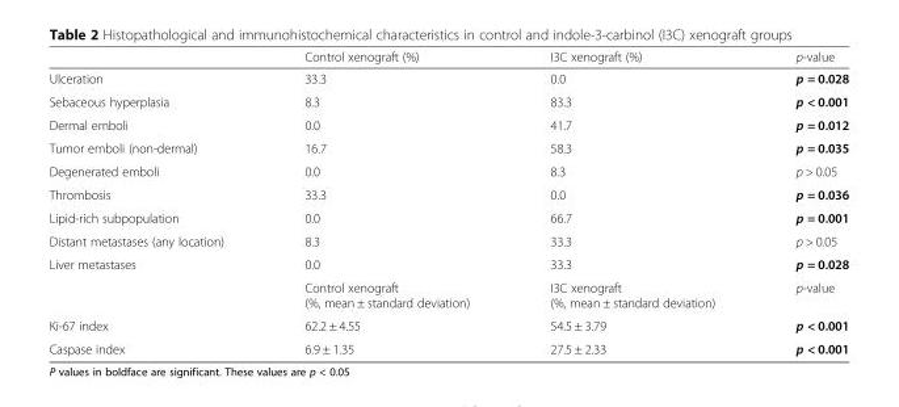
<table><thead><tr><td></td><td>Control xenograft (%)</td><td>I3C xenograft (%)</td><td>p-value</td></tr></thead><tbody><tr><td>Ulceration</td><td>33.3</td><td>0.0</td><td>p = 0.028</td></tr><tr><td>Sebaceous hyperplasia</td><td>8.3</td><td>83.3</td><td>p &lt; 0.001</td></tr><tr><td>Dermal emboli</td><td>0.0</td><td>41.7</td><td>p = 0.012</td></tr><tr><td>Tumor emboli (non-dermal)</td><td>16.7</td><td>58.3</td><td>p = 0.035</td></tr><tr><td>Degenerated emboli</td><td>0.0</td><td>8.3</td><td>p &gt; 0.05</td></tr><tr><td>Thrombosis</td><td>33.3</td><td>0.0</td><td>p = 0.036</td></tr><tr><td>Lipid-rich subpopulation</td><td>0.0</td><td>66.7</td><td>p = 0.001</td></tr><tr><td>Distant metastases (any location)</td><td>8.3</td><td>33.3</td><td>p &gt; 0.05</td></tr><tr><td rowspan="2">Liver metastases</td><td>0.0</td><td>33.3</td><td>p = 0.028</td></tr><tr><td>Control xenograft (%, mean ± standard deviation)</td><td>I3C xenograft (%, mean ± standard deviation)</td><td>p-value</td></tr><tr><td>Ki-67 index</td><td>62.2 ± 4.55</td><td>54.5 ± 3.79</td><td>p &lt; 0.001</td></tr><tr><td>Caspase index</td><td>6.9 ± 1.35</td><td>27.5 ± 2.33</td><td>p &lt; 0.001</td></tr></tbody></table>